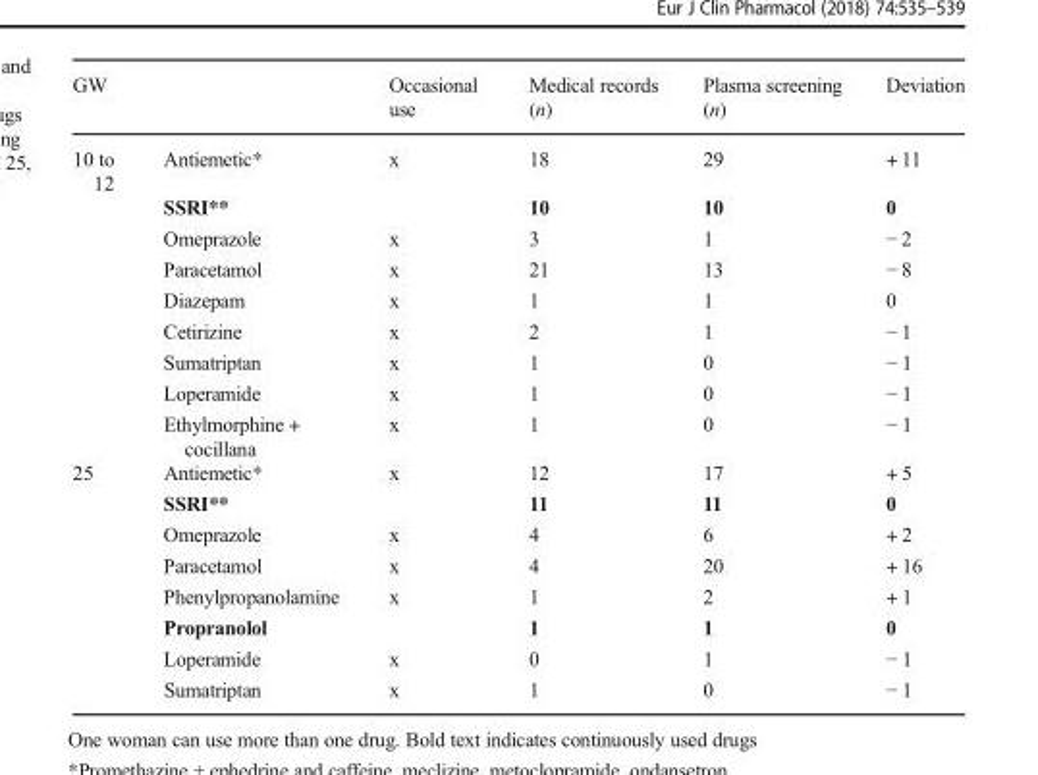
<table><thead><tr><td>GW</td><td></td><td>Occasional use</td><td>Medical records (n)</td><td>Plasma screening (n)</td><td>Deviation</td></tr></thead><tbody><tr><td rowspan="9">10 to 12</td><td>Antiemetic*</td><td>x</td><td>18</td><td>29</td><td>+ 11</td></tr><tr><td>SSRI**</td><td></td><td>10</td><td>10</td><td>0</td></tr><tr><td>Omeprazole</td><td>x</td><td>3</td><td>1</td><td>− 2</td></tr><tr><td>Paracetamol</td><td>x</td><td>21</td><td>13</td><td>− 8</td></tr><tr><td>Diazepam</td><td>x</td><td>1</td><td>1</td><td>0</td></tr><tr><td>Cetirizine</td><td>x</td><td>2</td><td>1</td><td>− 1</td></tr><tr><td>Sumatriptan</td><td>x</td><td>1</td><td>0</td><td>− 1</td></tr><tr><td>Loperamide</td><td>x</td><td>1</td><td>0</td><td>− 1</td></tr><tr><td>Ethylmorphine + cocillana</td><td>x</td><td>1</td><td>0</td><td>− 1</td></tr><tr><td rowspan="8">25</td><td>Antiemetic*</td><td>x</td><td>12</td><td>17</td><td>+ 5</td></tr><tr><td>SSRI**</td><td></td><td>11</td><td>11</td><td>0</td></tr><tr><td>Omeprazole</td><td>x</td><td>4</td><td>6</td><td>+ 2</td></tr><tr><td>Paracetamol</td><td>x</td><td>4</td><td>20</td><td>+ 16</td></tr><tr><td>Phenylpropanolamine</td><td>x</td><td>1</td><td>2</td><td>+ 1</td></tr><tr><td>Propranolol</td><td></td><td>1</td><td>1</td><td>0</td></tr><tr><td>Loperamide</td><td>x</td><td>0</td><td>1</td><td>− 1</td></tr><tr><td>Sumatriptan</td><td>x</td><td>1</td><td>0</td><td>− 1</td></tr></tbody></table>